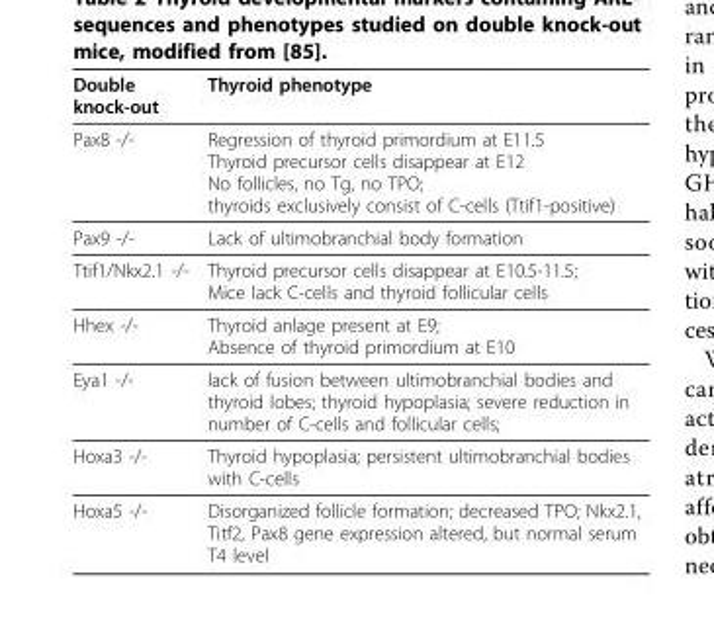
<table><thead><tr><td>Double knock-out</td><td>Thyroid phenotype</td></tr></thead><tbody><tr><td>Pax8 -/-</td><td>Regression of thyroid primordium at E11.5 Thyroid precursor cells disappear at E12 No follicles, no Tg, no TPO; thyroids exclusively consist of C-cells (Ttif1-positive)</td></tr><tr><td>Pax9 -/-</td><td>Lack of ultimobranchial body formation</td></tr><tr><td>Ttif1/Nkx2.1 -/-</td><td>Thyroid precursor cells disappear at E10.5-11.5; Mice lack C-cells and thyroid follicular cells</td></tr><tr><td>Hhex -/-</td><td>Thyroid anlage present at E9; Absence of thyroid primordium at E10</td></tr><tr><td>Eya1 -/-</td><td>lack of fusion between ultimobranchial bodies and thyroid lobes; thyroid hypoplasia; severe reduction in number of C-cells and follicular cells;</td></tr><tr><td>Hoxa3 -/-</td><td>Thyroid hypoplasia; persistent ultimobranchial bodies with C-cells</td></tr><tr><td>Hoxa5 -/-</td><td>Disorganized follicle formation; decreased TPO; Nkx2.1, Titf2, Pax8 gene expression altered, but normal serum T4 level</td></tr></tbody></table>